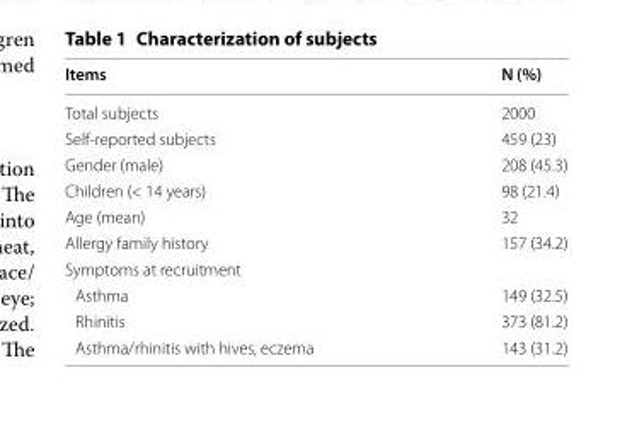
<table><thead><tr><td>Items</td><td>N (%)</td></tr></thead><tbody><tr><td>Total subjects</td><td>2000</td></tr><tr><td>Self‑reported subjects</td><td>459 (23)</td></tr><tr><td>Gender (male)</td><td>208 (45.3)</td></tr><tr><td>Children (&lt; 14 years)</td><td>98 (21.4)</td></tr><tr><td>Age (mean)</td><td>32</td></tr><tr><td>Allergy family history</td><td>157 (34.2)</td></tr><tr><td colspan="2">Symptoms at recruitment</td></tr><tr><td>Asthma</td><td>149 (32.5)</td></tr><tr><td>Rhinitis</td><td>373 (81.2)</td></tr><tr><td>Asthma/rhinitis with hives, eczema</td><td>143 (31.2)</td></tr></tbody></table>